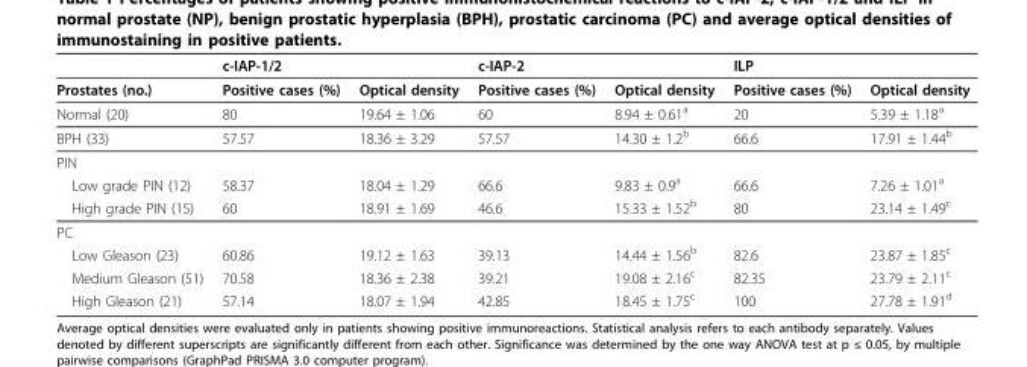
<table><thead><tr><td rowspan="2">Prostates (no.)</td><td colspan="2">c-IAP-1/2</td><td colspan="2">c-IAP-2</td><td colspan="2">ILP</td></tr><tr><td>Positive cases (%)</td><td>Optical density</td><td>Positive cases (%)</td><td>Optical density</td><td>Positive cases (%)</td><td>Optical density</td></tr></thead><tbody><tr><td>Normal (20)</td><td>80</td><td>19.64 ± 1.06</td><td>60</td><td>8.94 ± 0.61<sup>a</sup></td><td>20</td><td>5.39 ± 1.18<sup>a</sup></td></tr><tr><td>BPH (33)</td><td>57.57</td><td>18.36 ± 3.29</td><td>57.57</td><td>14.30 ± 1.2<sup>b</sup></td><td>66.6</td><td>17.91 ± 1.44<sup>b</sup></td></tr><tr><td colspan="7">PIN</td></tr><tr><td>Low grade PIN (12)</td><td>58.37</td><td>18.04 ± 1.29</td><td>66.6</td><td>9.83 ± 0.9<sup>a</sup></td><td>66.6</td><td>7.26 ± 1.01<sup>a</sup></td></tr><tr><td>High grade PIN (15)</td><td>60</td><td>18.91 ± 1.69</td><td>46.6</td><td>15.33 ± 1.52<sup>b</sup></td><td>80</td><td>23.14 ± 1.49<sup>c</sup></td></tr><tr><td colspan="7">PC</td></tr><tr><td>Low Gleason (23)</td><td>60.86</td><td>19.12 ± 1.63</td><td>39.13</td><td>14.44 ± 1.56<sup>b</sup></td><td>82.6</td><td>23.87 ± 1.85<sup>c</sup></td></tr><tr><td>Medium Gleason (51)</td><td>70.58</td><td>18.36 ± 2.38</td><td>39.21</td><td>19.08 ± 2.16<sup>c</sup></td><td>82.35</td><td>23.79 ± 2.11<sup>c</sup></td></tr><tr><td>High Gleason (21)</td><td>57.14</td><td>18.07 ± 1.94</td><td>42.85</td><td>18.45 ± 1.75<sup>c</sup></td><td>100</td><td>27.78 ± 1.91<sup>d</sup></td></tr></tbody></table>